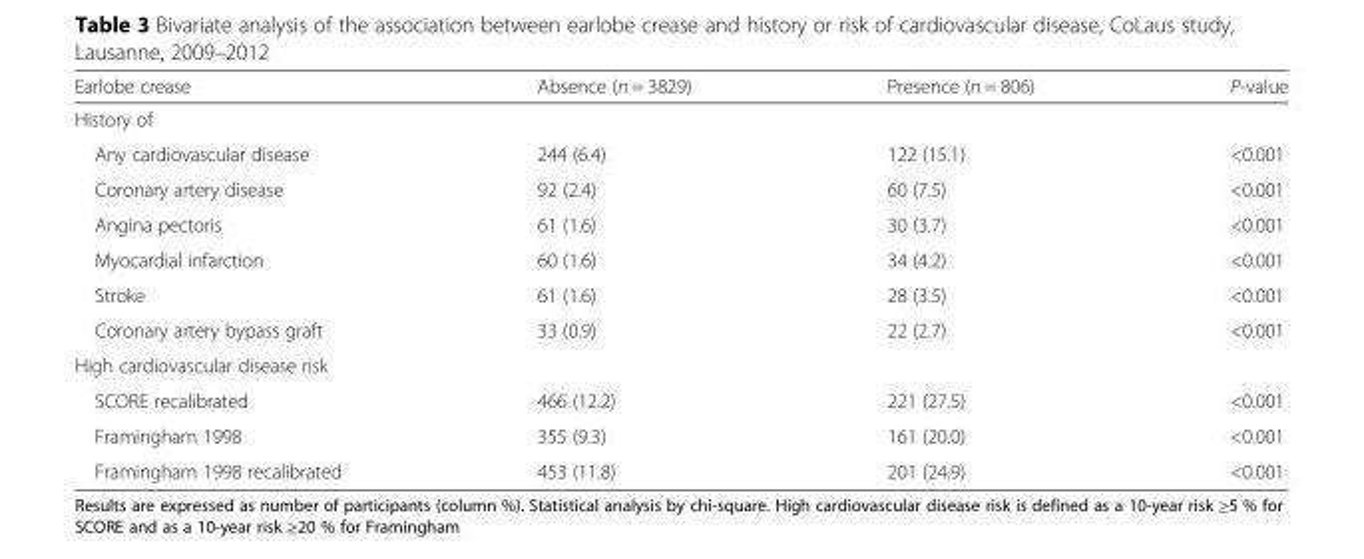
<table><thead><tr><td>Earlobe crease</td><td>Absence (n = 3829)</td><td>Presence (n = 806)</td><td>P-value</td></tr></thead><tbody><tr><td colspan="4">History of</td></tr><tr><td>Any cardiovascular disease</td><td>244 (6.4)</td><td>122 (15.1)</td><td>&lt;0.001</td></tr><tr><td>Coronary artery disease</td><td>92 (2.4)</td><td>60 (7.5)</td><td>&lt;0.001</td></tr><tr><td>Angina pectoris</td><td>61 (1.6)</td><td>30 (3.7)</td><td>&lt;0.001</td></tr><tr><td>Myocardial infarction</td><td>60 (1.6)</td><td>34 (4.2)</td><td>&lt;0.001</td></tr><tr><td>Stroke</td><td>61 (1.6)</td><td>28 (3.5)</td><td>&lt;0.001</td></tr><tr><td>Coronary artery bypass graft</td><td>33 (0.9)</td><td>22 (2.7)</td><td>&lt;0.001</td></tr><tr><td colspan="4">High cardiovascular disease risk</td></tr><tr><td>SCORE recalibrated</td><td>466 (12.2)</td><td>221 (27.5)</td><td>&lt;0.001</td></tr><tr><td>Framingham 1998</td><td>355 (9.3)</td><td>161 (20.0)</td><td>&lt;0.001</td></tr><tr><td>Framingham 1998 recalibrated</td><td>453 (11.8)</td><td>201 (24.9)</td><td>&lt;0.001</td></tr></tbody></table>